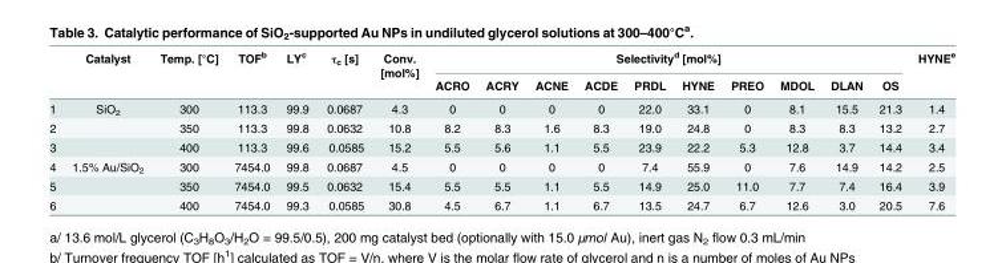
<table><thead><tr><td rowspan="2"></td><td rowspan="2">Catalyst</td><td rowspan="2">Temp. [°C]</td><td rowspan="2">TOF<sup>b</sup></td><td rowspan="2">LY<sup>c</sup></td><td rowspan="2">τ<sub>c</sub> [s]</td><td rowspan="2">Conv. [mol%]</td><td colspan="10">Selectivity<sup>d</sup> [mol%]</td><td rowspan="2">HYNE<sup>e</sup></td></tr><tr><td>ACRO</td><td>ACRY</td><td>ACNE</td><td>ACDE</td><td>PRDL</td><td>HYNE</td><td>PREO</td><td>MDOL</td><td>DLAN</td><td>OS</td></tr></thead><tbody><tr><td>1</td><td>SiO<sub>2</sub></td><td>300</td><td>113.3</td><td>99.9</td><td>0.0687</td><td>4.3</td><td>0</td><td>0</td><td>0</td><td>0</td><td>22.0</td><td>33.1</td><td>0</td><td>8.1</td><td>15.5</td><td>21.3</td><td>1.4</td></tr><tr><td>2</td><td></td><td>350</td><td>113.3</td><td>99.8</td><td>0.0632</td><td>10.8</td><td>8.2</td><td>8.3</td><td>1.6</td><td>8.3</td><td>19.0</td><td>24.8</td><td>0</td><td>8.3</td><td>8.3</td><td>13.2</td><td>2.7</td></tr><tr><td>3</td><td></td><td>400</td><td>113.3</td><td>99.6</td><td>0.0585</td><td>15.2</td><td>5.5</td><td>5.6</td><td>1.1</td><td>5.5</td><td>23.9</td><td>22.2</td><td>5.3</td><td>12.8</td><td>3.7</td><td>14.4</td><td>3.4</td></tr><tr><td>4</td><td>1.5% Au/SiO<sub>2</sub></td><td>300</td><td>7454.0</td><td>99.8</td><td>0.0687</td><td>4.5</td><td>0</td><td>0</td><td>0</td><td>0</td><td>7.4</td><td>55.9</td><td>0</td><td>7.6</td><td>14.9</td><td>14.2</td><td>2.5</td></tr><tr><td>5</td><td></td><td>350</td><td>7454.0</td><td>99.5</td><td>0.0632</td><td>15.4</td><td>5.5</td><td>5.5</td><td>1.1</td><td>5.5</td><td>14.9</td><td>25.0</td><td>11.0</td><td>7.7</td><td>7.4</td><td>16.4</td><td>3.9</td></tr><tr><td>6</td><td></td><td>400</td><td>7454.0</td><td>99.3</td><td>0.0585</td><td>30.8</td><td>4.5</td><td>6.7</td><td>1.1</td><td>6.7</td><td>13.5</td><td>24.7</td><td>6.7</td><td>12.6</td><td>3.0</td><td>20.5</td><td>7.6</td></tr></tbody></table>